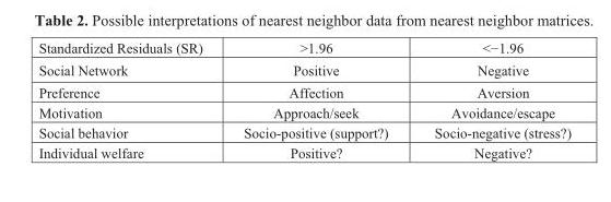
<table><tbody><tr><td>Standardized Residuals (SR)</td><td>&gt;1.96</td><td>&lt;−1.96</td></tr><tr><td>Social Network</td><td>Positive</td><td>Negative</td></tr><tr><td>Preference</td><td>Affection</td><td>Aversion</td></tr><tr><td>Motivation</td><td>Approach/seek</td><td>Avoidance/escape</td></tr><tr><td>Social behavior</td><td>Socio-positive (support?)</td><td>Socio-negative (stress?)</td></tr><tr><td>Individual welfare</td><td>Positive?</td><td>Negative?</td></tr></tbody></table>